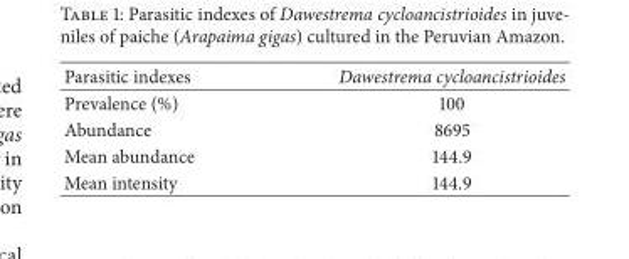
<table><thead><tr><td>Parasitic indexes</td><td>Dawestrema cycloancistrioides</td></tr></thead><tbody><tr><td>Prevalence (%)</td><td>100</td></tr><tr><td>Abundance</td><td>8695</td></tr><tr><td>Mean abundance</td><td>144.9</td></tr><tr><td>Mean intensity</td><td>144.9</td></tr></tbody></table>